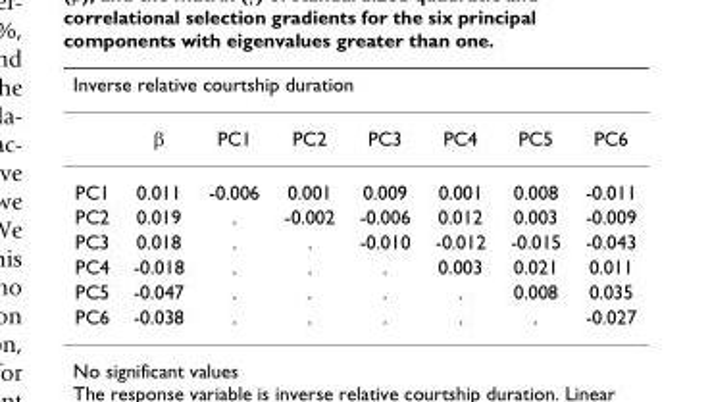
<table><thead><tr><td colspan="8">Inverse relative courtship duration</td></tr><tr><td></td><td>β</td><td>PC1</td><td>PC2</td><td>PC3</td><td>PC4</td><td>PC5</td><td>PC6</td></tr></thead><tbody><tr><td>PC1</td><td>0.011</td><td>-0.006</td><td>0.001</td><td>0.009</td><td>0.001</td><td>0.008</td><td>-0.011</td></tr><tr><td>PC2</td><td>0.019</td><td>.</td><td>-0.002</td><td>-0.006</td><td>0.012</td><td>0.003</td><td>-0.009</td></tr><tr><td>PC3</td><td>0.018</td><td>.</td><td>.</td><td>-0.010</td><td>-0.012</td><td>-0.015</td><td>-0.043</td></tr><tr><td>PC4</td><td>-0.018</td><td>.</td><td>.</td><td>.</td><td>0.003</td><td>0.021</td><td>0.011</td></tr><tr><td>PC5</td><td>-0.047</td><td>.</td><td>.</td><td>.</td><td>.</td><td>0.008</td><td>0.035</td></tr><tr><td>PC6</td><td>-0.038</td><td>.</td><td>.</td><td>.</td><td>.</td><td>.</td><td>-0.027</td></tr></tbody></table>